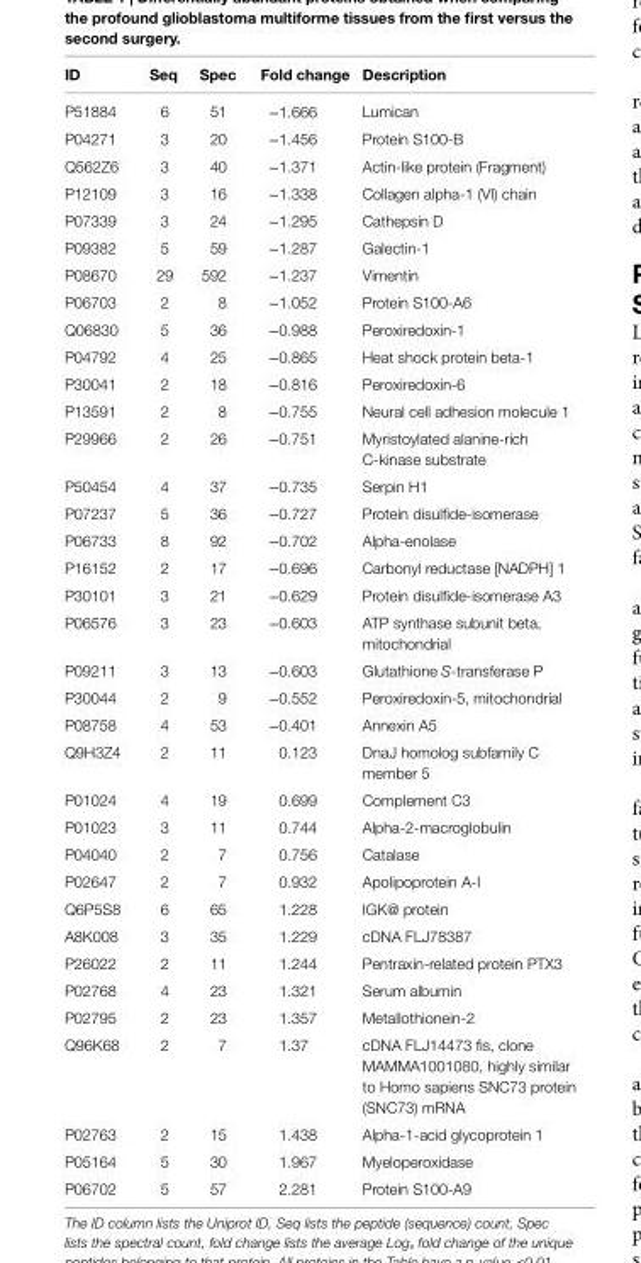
<table><thead><tr><td>iD</td><td>seq</td><td>spec</td><td>Fold change</td><td>Description</td></tr></thead><tbody><tr><td>P51884</td><td>6</td><td>51</td><td>−1.666</td><td>Lumican</td></tr><tr><td>P04271</td><td>3</td><td>20</td><td>−1.456</td><td>Protein S100-B</td></tr><tr><td>Q562Z6</td><td>3</td><td>40</td><td>−1.371</td><td>Actin-like protein (Fragment)</td></tr><tr><td>P12109</td><td>3</td><td>16</td><td>−1.338</td><td>Collagen alpha-1 (VI) chain</td></tr><tr><td>P07339</td><td>3</td><td>24</td><td>−1.295</td><td>Cathepsin D</td></tr><tr><td>P09382</td><td>5</td><td>59</td><td>−1.287</td><td>Galectin-1</td></tr><tr><td>P08670</td><td>29</td><td>592</td><td>−1.237</td><td>Vimentin</td></tr><tr><td>P06703</td><td>2</td><td>8</td><td>−1.052</td><td>Protein S100-A6</td></tr><tr><td>Q06830</td><td>5</td><td>36</td><td>−0.988</td><td>Peroxiredoxin-1</td></tr><tr><td>P04792</td><td>4</td><td>25</td><td>−0.865</td><td>Heat shock protein beta-1</td></tr><tr><td>P30041</td><td>2</td><td>18</td><td>−0.816</td><td>Peroxiredoxin-6</td></tr><tr><td>P13591</td><td>2</td><td>8</td><td>−0.755</td><td>Neural cell adhesion molecule 1</td></tr><tr><td>P29966</td><td>2</td><td>26</td><td>−0.751</td><td>Myristoylated alanine-rich C-kinase substrate</td></tr><tr><td>P50454</td><td>4</td><td>37</td><td>−0.735</td><td>Serpin H1</td></tr><tr><td>P07237</td><td>5</td><td>36</td><td>−0.727</td><td>Protein disulfide-isomerase</td></tr><tr><td>P06733</td><td>8</td><td>92</td><td>−0.702</td><td>Alpha-enolase</td></tr><tr><td>P16152</td><td>2</td><td>17</td><td>−0.696</td><td>Carbonyl reductase [NADPH] 1</td></tr><tr><td>P30101</td><td>3</td><td>21</td><td>−0.629</td><td>Protein disulfide-isomerase A3</td></tr><tr><td>P06576</td><td>3</td><td>23</td><td>−0.603</td><td>ATP synthase subunit beta, mitochondrial</td></tr><tr><td>P09211</td><td>3</td><td>13</td><td>−0.603</td><td>Glutathione S-transferase P</td></tr><tr><td>P30044</td><td>2</td><td>9</td><td>−0.552</td><td>Peroxiredoxin-5, mitochondrial</td></tr><tr><td>P08758</td><td>4</td><td>53</td><td>−0.401</td><td>Annexin A5</td></tr><tr><td>Q9H3Z4</td><td>2</td><td>11</td><td>0.123</td><td>DnaJ homolog subfamily C member 5</td></tr><tr><td>P01024</td><td>4</td><td>19</td><td>0.699</td><td>Complement C3</td></tr><tr><td>P01023</td><td>3</td><td>11</td><td>0.744</td><td>Alpha-2-macroglobulin</td></tr><tr><td>P04040</td><td>2</td><td>7</td><td>0.756</td><td>Catalase</td></tr><tr><td>P02647</td><td>2</td><td>7</td><td>0.932</td><td>Apolipoprotein A-I</td></tr><tr><td>Q6P5S8</td><td>6</td><td>65</td><td>1.228</td><td>IGK@ protein</td></tr><tr><td>A8K008</td><td>3</td><td>35</td><td>1.229</td><td>cDNA FLJ78387</td></tr><tr><td>P26022</td><td>2</td><td>11</td><td>1.244</td><td>Pentraxin-related protein PTX3</td></tr><tr><td>P02768</td><td>4</td><td>23</td><td>1.321</td><td>Serum albumin</td></tr><tr><td>P02795</td><td>2</td><td>23</td><td>1.357</td><td>Metallothionein-2</td></tr><tr><td>Q96K68</td><td>2</td><td>7</td><td>1.37</td><td>cDNA FLJ14473 fis, clone MAMMA1001080, highly similar to Homo sapiens SNC73 protein (SNC73) mRNA</td></tr><tr><td>P02763</td><td>2</td><td>15</td><td>1.438</td><td>Alpha-1-acid glycoprotein 1</td></tr><tr><td>P05164</td><td>5</td><td>30</td><td>1.967</td><td>Myeloperoxidase</td></tr><tr><td>P06702</td><td>5</td><td>57</td><td>2.281</td><td>Protein S100-A9</td></tr></tbody></table>